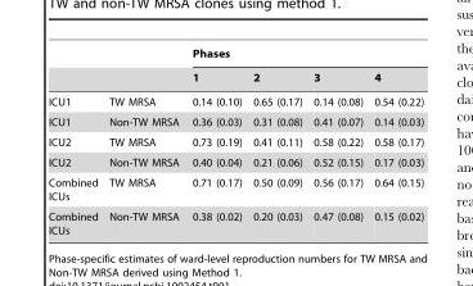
<table><thead><tr><td rowspan="2"></td><td rowspan="2"></td><td colspan="4">Phases</td></tr><tr><td>1</td><td>2</td><td>3</td><td>4</td></tr></thead><tbody><tr><td>ICU1</td><td>TW MRSA</td><td>0.14 (0.10)</td><td>0.65 (0.17)</td><td>0.14 (0.08)</td><td>0.54 (0.22)</td></tr><tr><td>ICU1</td><td>Non-TW MRSA</td><td>0.36 (0.03)</td><td>0.31 (0.08)</td><td>0.41 (0.07)</td><td>0.14 (0.03)</td></tr><tr><td>ICU2</td><td>TW MRSA</td><td>0.73 (0.19)</td><td>0.41 (0.11)</td><td>0.58 (0.22)</td><td>0.58 (0.17)</td></tr><tr><td>ICU2</td><td>Non-TW MRSA</td><td>0.40 (0.04)</td><td>0.21 (0.06)</td><td>0.52 (0.15)</td><td>0.17 (0.03)</td></tr><tr><td>Combined ICUs</td><td>TW MRSA</td><td>0.71 (0.17)</td><td>0.50 (0.09)</td><td>0.56 (0.17)</td><td>0.64 (0.15)</td></tr><tr><td>Combined ICUs</td><td>Non-TW MRSA</td><td>0.38 (0.02)</td><td>0.20 (0.03)</td><td>0.47 (0.08)</td><td>0.15 (0.02)</td></tr></tbody></table>